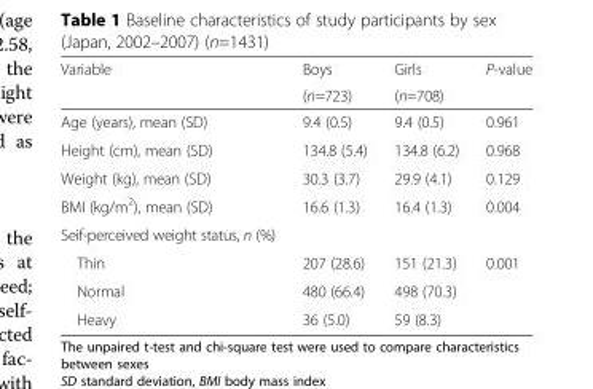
<table><thead><tr><td rowspan="2">Variable</td><td rowspan="2">Boys (n=723)</td><td rowspan="2">Girls (n=708)</td><td rowspan="2">P-value</td></tr><tr></tr></thead><tbody><tr><td>Age (years), mean (SD)</td><td>9.4 (0.5)</td><td>9.4 (0.5)</td><td>0.961</td></tr><tr><td>Height (cm), mean (SD)</td><td>134.8 (5.4)</td><td>134.8 (6.2)</td><td>0.968</td></tr><tr><td>Weight (kg), mean (SD)</td><td>30.3 (3.7)</td><td>29.9 (4.1)</td><td>0.129</td></tr><tr><td>BMI (kg/m<sup>2</sup>), mean (SD)</td><td>16.6 (1.3)</td><td>16.4 (1.3)</td><td>0.004</td></tr><tr><td colspan="4">Seif-perceived weight status, n (%)</td></tr><tr><td>Thin</td><td>207 (28.6)</td><td>151 (21.3)</td><td rowspan="3">0.001</td></tr><tr><td>Normal</td><td>480 (66.4)</td><td>498 (70.3)</td></tr><tr><td>Heavy</td><td>36 (5.0)</td><td>59 (8.3)</td></tr></tbody></table>